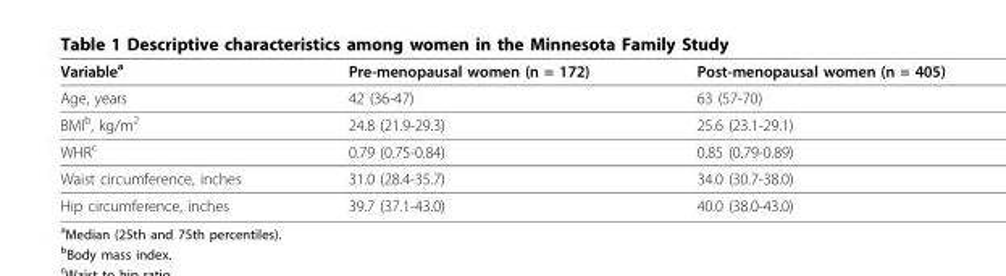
<table><thead><tr><td>Variable<sup>a</sup></td><td>Pre-menopausal women (n = 172)</td><td>Post-menopausal women (n = 405)</td></tr></thead><tbody><tr><td>Age, years</td><td>42 (36-47)</td><td>63 (57-70)</td></tr><tr><td>BMI<sup>b</sup>, kg/m<sup>2</sup></td><td>24.8 (21.9-29.3)</td><td>25.6 (23.1-29.1)</td></tr><tr><td>WHR<sup>c</sup></td><td>0.79 (0.75-0.84)</td><td>0.85 (0.79-0.89)</td></tr><tr><td>Waist circumference, inches</td><td>31.0 (28.4-35.7)</td><td>34.0 (30.7-38.0)</td></tr><tr><td>Hip circumference, inches</td><td>39.7 (37.1-43.0)</td><td>40.0 (38.0-43.0)</td></tr></tbody></table>